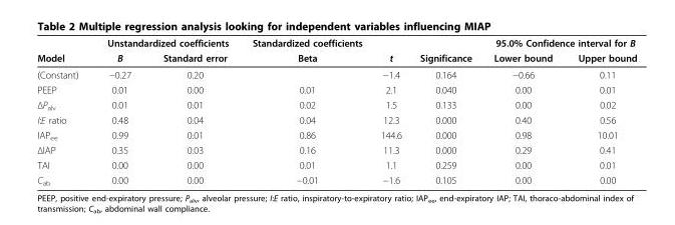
<table><thead><tr><td rowspan="2">Model</td><td colspan="2">Unstandardized coefficients</td><td rowspan="2">Standardized coefficients Beta</td><td rowspan="2">t</td><td rowspan="2">Significance</td><td colspan="2">95.0% Confidence interval for B</td></tr><tr><td>B</td><td>Standard error</td><td>Lower bound</td><td>Upper bound</td></tr></thead><tbody><tr><td>(Constant)</td><td>−0.27</td><td>0.20</td><td></td><td>−1.4</td><td>0.164</td><td>−0.66</td><td>0.11</td></tr><tr><td>PEEP</td><td>0.01</td><td>0.00</td><td>0.01</td><td>2.1</td><td>0.040</td><td>0.00</td><td>0.01</td></tr><tr><td>ΔP<sub>alv</sub></td><td>0.01</td><td>0.01</td><td>0.02</td><td>1.5</td><td>0.133</td><td>0.00</td><td>0.02</td></tr><tr><td>I:E ratio</td><td>0.48</td><td>0.04</td><td>0.04</td><td>12.3</td><td>0.000</td><td>0.40</td><td>0.56</td></tr><tr><td>IAP<sub>ee</sub></td><td>0.99</td><td>0.01</td><td>0.86</td><td>144.6</td><td>0.000</td><td>0.98</td><td>10.01</td></tr><tr><td>ΔIAP</td><td>0.35</td><td>0.03</td><td>0.16</td><td>11.3</td><td>0.000</td><td>0.29</td><td>0.41</td></tr><tr><td>TAI</td><td>0.00</td><td>0.00</td><td>0.01</td><td>1.1</td><td>0.259</td><td>0.00</td><td>0.01</td></tr><tr><td>C<sub>ab</sub></td><td>0.00</td><td>0.00</td><td>−0.01</td><td>−1.6</td><td>0.105</td><td>0.00</td><td>0.00</td></tr></tbody></table>